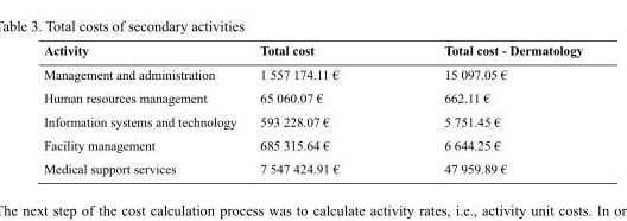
<table><thead><tr><td>Activity</td><td>Total cost</td><td>Total cost - Dermatology</td></tr></thead><tbody><tr><td>Management and administration</td><td>1 557 174.11 €</td><td>15 097.05 €</td></tr><tr><td>Human resources management</td><td>65 060.07 €</td><td>662.11 €</td></tr><tr><td>Information systems and technology</td><td>593 228.07 €</td><td>5 751.45 €</td></tr><tr><td>Facility management</td><td>685 315.64 €</td><td>6 644.25 €</td></tr><tr><td>Medical support services</td><td>7 547 424.91 €</td><td>47 959.89 €</td></tr></tbody></table>